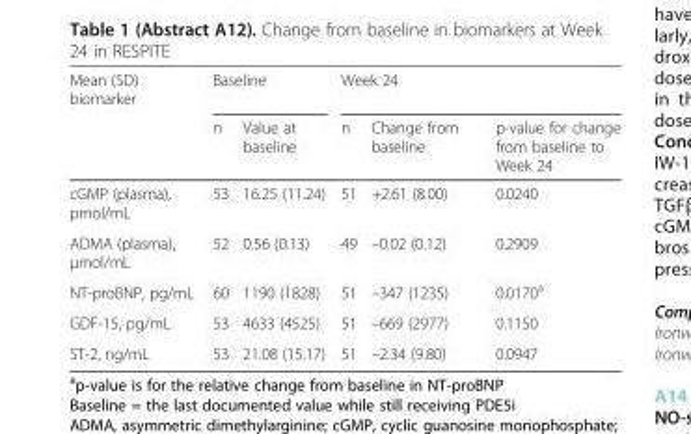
<table><thead><tr><td rowspan="2">Mean (SD) biomarker</td><td colspan="2">Baseline</td><td colspan="3">Week 24</td></tr><tr><td>n</td><td>Value at baseline</td><td>n</td><td>Change from baseline</td><td>p-value for change from baseline to Week 24</td></tr></thead><tbody><tr><td>cGMP (plasma), pmol/mL</td><td>53</td><td>16.25 (11.24)</td><td>51</td><td>+2.61 (8.00)</td><td>0.0240</td></tr><tr><td>ADMA (plasma), μmol/mL</td><td>52</td><td>0.56 (0.13)</td><td>49</td><td>–0.02 (0.12)</td><td>0.2909</td></tr><tr><td>NT-proBNP, pg/mL</td><td>60</td><td>1190 (1828)</td><td>51</td><td>–347 (1235)</td><td>0.0170<sup>a</sup></td></tr><tr><td>GDF-15, pg/mL</td><td>53</td><td>4633 (4525)</td><td>51</td><td>–669 (2977)</td><td>0.1150</td></tr><tr><td>ST-2, ng/mL</td><td>53</td><td>21.08 (15.17)</td><td>51</td><td>–2.34 (9.80)</td><td>0.0947</td></tr></tbody></table>